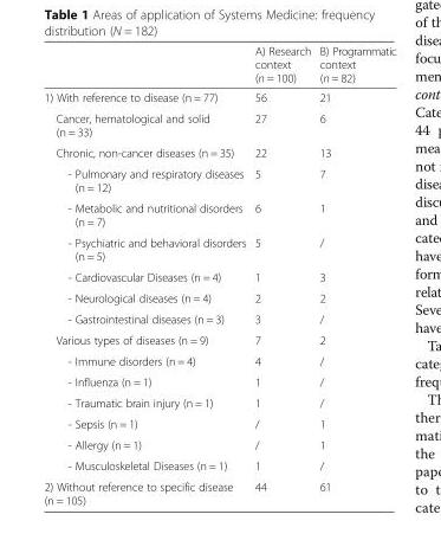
<table><thead><tr><td></td><td>A) Research context (n = 100)</td><td>B) Programmatic context (n = 82)</td></tr></thead><tbody><tr><td>1) With reference to disease (n = 77)</td><td>56</td><td>21</td></tr><tr><td>Cancer, hematological and solid (n = 33)</td><td>27</td><td>6</td></tr><tr><td>Chronic, non-cancer diseases (n = 35)</td><td>22</td><td>13</td></tr><tr><td>- Pulmonary and respiratory diseases (n = 12)</td><td>5</td><td>7</td></tr><tr><td>- Metabolic and nutritional disorders (n = 7)</td><td>6</td><td>1</td></tr><tr><td>- Psychiatric and behavioral disorders (n = 5)</td><td>5</td><td>/</td></tr><tr><td>- Cardiovascular Diseases (n = 4)</td><td>1</td><td>3</td></tr><tr><td>- Neurological diseases (n = 4)</td><td>2</td><td>2</td></tr><tr><td>- Gastrointestinal diseases (n = 3)</td><td>3</td><td>/</td></tr><tr><td>Various types of diseases (n = 9)</td><td>7</td><td>2</td></tr><tr><td>- Immune disorders (n = 4)</td><td>4</td><td>/</td></tr><tr><td>- Influenza (n = 1)</td><td>1</td><td>/</td></tr><tr><td>- Traumatic brain injury (n = 1)</td><td>1</td><td>/</td></tr><tr><td>- Sepsis (n = 1)</td><td>/</td><td>1</td></tr><tr><td>- Allergy (n = 1)</td><td>/</td><td>1</td></tr><tr><td>- Musculoskeletal Diseases (n = 1)</td><td>1</td><td>/</td></tr><tr><td>2) Without reference to specific disease (n = 105)</td><td>44</td><td>61</td></tr></tbody></table>